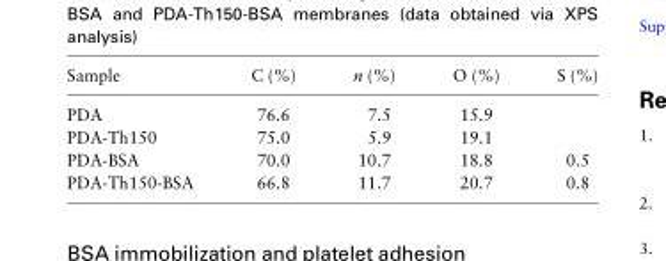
<table><thead><tr><td>Sample</td><td>C (%)</td><td>n (%)</td><td>O (%)</td><td>S (%)</td></tr></thead><tbody><tr><td>PDA</td><td>76.6</td><td>7.5</td><td>15.9</td><td></td></tr><tr><td>PDA-Th150</td><td>75.0</td><td>5.9</td><td>19.1</td><td></td></tr><tr><td>PDA-BSA</td><td>70.0</td><td>10.7</td><td>18.8</td><td>0.5</td></tr><tr><td>PDA-Th150-BSA</td><td>66.8</td><td>11.7</td><td>20.7</td><td>0.8</td></tr></tbody></table>